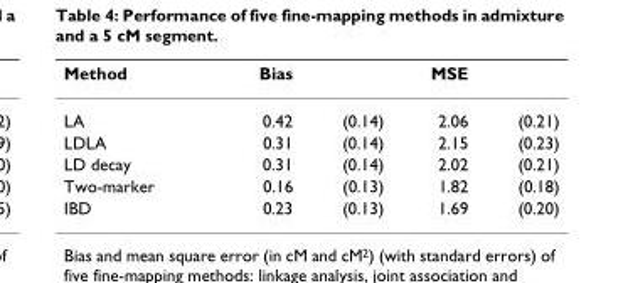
<table><thead><tr><td>Method</td><td>Bias</td><td></td><td>MSE</td><td></td></tr></thead><tbody><tr><td>LA</td><td>0.42</td><td>(0.14)</td><td>2.06</td><td>(0.21)</td></tr><tr><td>LDLA</td><td>0.31</td><td>(0.14)</td><td>2.15</td><td>(0.23)</td></tr><tr><td>LD decay</td><td>0.31</td><td>(0.14)</td><td>2.02</td><td>(0.21)</td></tr><tr><td>Two-marker</td><td>0.16</td><td>(0.13)</td><td>1.82</td><td>(0.18)</td></tr><tr><td>IBD</td><td>0.23</td><td>(0.13)</td><td>1.69</td><td>(0.20)</td></tr></tbody></table>